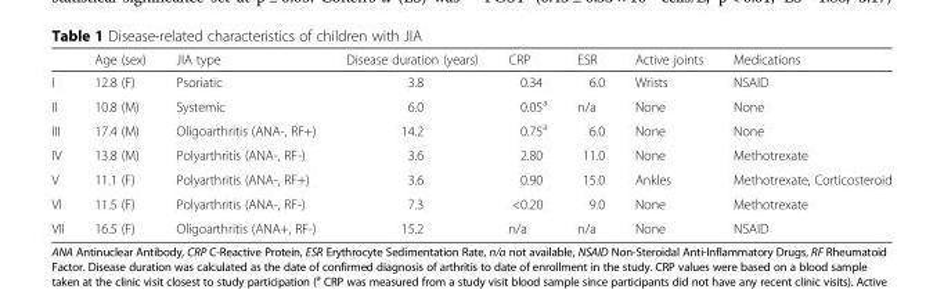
<table><thead><tr><td></td><td>Age (sex)</td><td>JIA type</td><td>Disease duration (years)</td><td>CRP</td><td>ESR</td><td>Active joints</td><td>Medications</td></tr></thead><tbody><tr><td>I</td><td>12.8 (F)</td><td>Psoriatic</td><td>3.8</td><td>0.34</td><td>6.0</td><td>Wrists</td><td>NSAID</td></tr><tr><td>II</td><td>10.8 (M)</td><td>Systemic</td><td>6.0</td><td>0.05<sup>a</sup></td><td>n/a</td><td>None</td><td>None</td></tr><tr><td>III</td><td>17.4 (M)</td><td>Oligoarthritis (ANA-, RF+)</td><td>14.2</td><td>0.75<sup>a</sup></td><td>6.0</td><td>None</td><td>None</td></tr><tr><td>IV</td><td>13.8 (M)</td><td>Polyarthritis (ANA-, RF-)</td><td>3.6</td><td>2.80</td><td>11.0</td><td>None</td><td>Methotrexate</td></tr><tr><td>V</td><td>11.1 (F)</td><td>Polyarthritis (ANA-, RF+)</td><td>3.6</td><td>0.90</td><td>15.0</td><td>Ankles</td><td>Methotrexate, Corticosteroid</td></tr><tr><td>VI</td><td>11.5 (F)</td><td>Polyarthritis (ANA-, RF-)</td><td>7.3</td><td>&lt;0.20</td><td>9.0</td><td>None</td><td>Methotrexate</td></tr><tr><td>VII</td><td>16.5 (F)</td><td>Oligoarthritis (ANA+, RF-)</td><td>15.2</td><td>n/a</td><td>n/a</td><td>None</td><td>NSAID</td></tr></tbody></table>